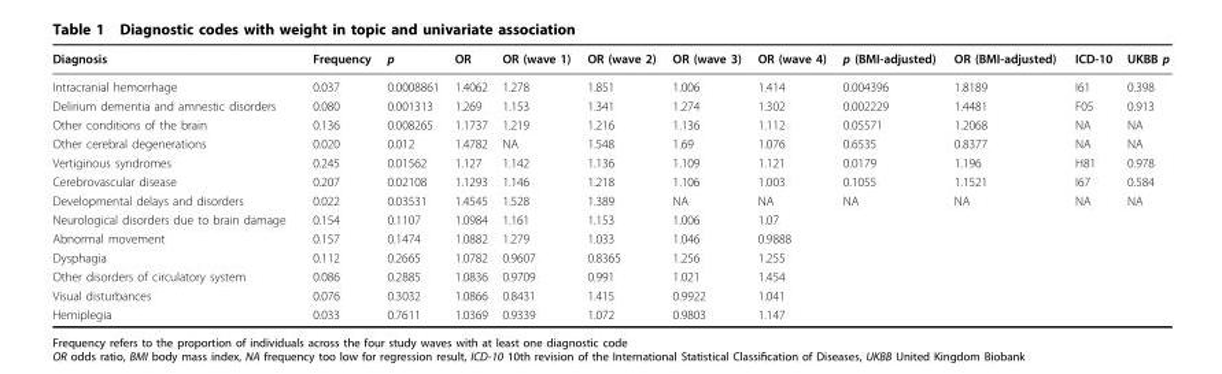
<table><thead><tr><td>Diagnosis</td><td>Frequency</td><td>p</td><td>OR</td><td>OR (wave 1)</td><td>OR (wave 2)</td><td>OR (wave 3)</td><td>OR (wave 4)</td><td>p (BMI-adjusted)</td><td>OR (BMI-adjusted)</td><td>ICD-10</td><td>UKBB p</td></tr></thead><tbody><tr><td>Intracranial hemorrhage</td><td>0.037</td><td>0.0008861</td><td>1.4062</td><td>1.278</td><td>1.851</td><td>1.006</td><td>1.414</td><td>0.004396</td><td>1.8189</td><td>I61</td><td>0.398</td></tr><tr><td>Delirium dementia and amnestic disorders</td><td>0.080</td><td>0.001313</td><td>1.269</td><td>1.153</td><td>1.341</td><td>1.274</td><td>1.302</td><td>0.002229</td><td>1.4481</td><td>F05</td><td>0.913</td></tr><tr><td>Other conditions of the brain</td><td>0.136</td><td>0.008265</td><td>1.1737</td><td>1.219</td><td>1.216</td><td>1.136</td><td>1.112</td><td>0.05571</td><td>1.2068</td><td>NA</td><td>NA</td></tr><tr><td>Other cerebral degenerations</td><td>0.020</td><td>0.012</td><td>1.4782</td><td>NA</td><td>1.548</td><td>1.69</td><td>1.076</td><td>0.6535</td><td>0.8377</td><td>NA</td><td>NA</td></tr><tr><td>Vertiginous syndromes</td><td>0.245</td><td>0.01562</td><td>1.127</td><td>1.142</td><td>1.136</td><td>1.109</td><td>1.121</td><td>0.0179</td><td>1.196</td><td>H81</td><td>0.978</td></tr><tr><td>Cerebrovascular disease</td><td>0.207</td><td>0.02108</td><td>1.1293</td><td>1.146</td><td>1.218</td><td>1.106</td><td>1.003</td><td>0.1055</td><td>1.1521</td><td>I67</td><td>0.584</td></tr><tr><td>Developmental delays and disorders</td><td>0.022</td><td>0.03531</td><td>1.4545</td><td>1.528</td><td>1.389</td><td>NA</td><td>NA</td><td>NA</td><td>NA</td><td>NA</td><td>NA</td></tr><tr><td>Neurological disorders due to brain damage</td><td>0.154</td><td>0.1107</td><td>1.0984</td><td>1.161</td><td>1.153</td><td>1.006</td><td>1.07</td><td></td><td></td><td></td><td></td></tr><tr><td>Abnormal movement</td><td>0.157</td><td>0.1474</td><td>1.0882</td><td>1.279</td><td>1.033</td><td>1.046</td><td>0.9888</td><td></td><td></td><td></td><td></td></tr><tr><td>Dysphagia</td><td>0.112</td><td>0.2665</td><td>1.0782</td><td>0.9607</td><td>0.8365</td><td>1.256</td><td>1.255</td><td></td><td></td><td></td><td></td></tr><tr><td>Other disorders of circulatory system</td><td>0.086</td><td>0.2885</td><td>1.0836</td><td>0.9709</td><td>0.991</td><td>1.021</td><td>1.454</td><td></td><td></td><td></td><td></td></tr><tr><td>Visual disturbances</td><td>0.076</td><td>0.3032</td><td>1.0866</td><td>0.8431</td><td>1.415</td><td>0.9922</td><td>1.041</td><td></td><td></td><td></td><td></td></tr><tr><td>Hemiplegia</td><td>0.033</td><td>0.7611</td><td>1.0369</td><td>0.9339</td><td>1.072</td><td>0.9803</td><td>1.147</td><td></td><td></td><td></td><td></td></tr></tbody></table>